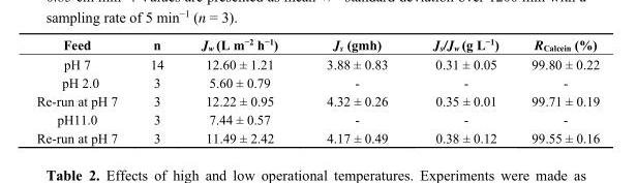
<table><thead><tr><td>Feed</td><td>n</td><td>J<sub>w</sub> (L m<sup>−2</sup> h<sup>−1</sup>)</td><td>J<sub>s</sub> (gmh)</td><td>J<sub>s</sub>/J<sub>w</sub> (g L<sup>−1</sup>)</td><td>R<sub>Calcein</sub> (%)</td></tr></thead><tbody><tr><td>pH 7</td><td>14</td><td>12.60 ± 1.21</td><td>3.88 ± 0.83</td><td>0.31 ± 0.05</td><td>99.80 ± 0.22</td></tr><tr><td>pH 2.0</td><td>3</td><td>5.60 ± 0.79</td><td>-</td><td>-</td><td>-</td></tr><tr><td>Re-run at pH 7</td><td>3</td><td>12.22 ± 0.95</td><td>4.32 ± 0.26</td><td>0.35 ± 0.01</td><td>99.71 ± 0.19</td></tr><tr><td>pH11.0</td><td>3</td><td>7.44 ± 0.57</td><td>-</td><td>-</td><td>-</td></tr><tr><td>Re-run at pH 7</td><td>3</td><td>11.49 ± 2.42</td><td>4.17 ± 0.49</td><td>0.38 ± 0.12</td><td>99.55 ± 0.16</td></tr></tbody></table>